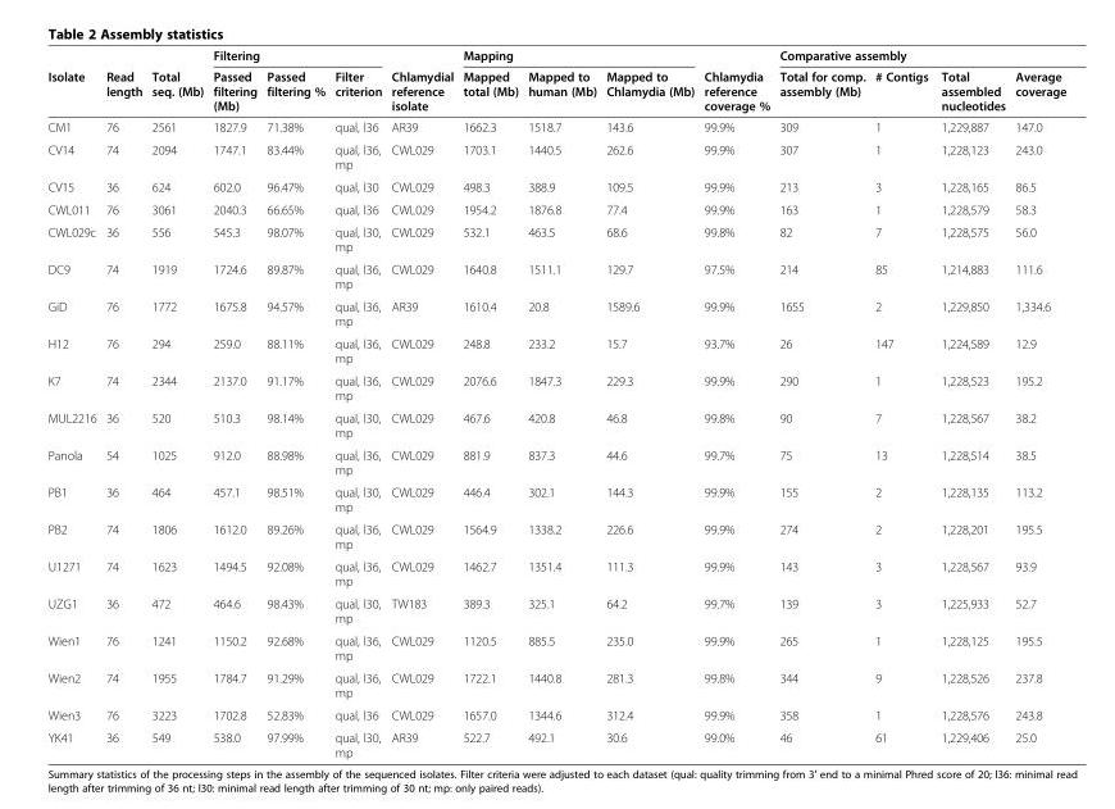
<table><thead><tr><td rowspan="2">Isolate</td><td rowspan="2">Read length</td><td rowspan="2">Total seq. (Mb)</td><td colspan="3">Filtering</td><td rowspan="2">Chlamydial reference isolate</td><td colspan="3">Mapping</td><td rowspan="2">Chlamydia reference coverage %</td><td colspan="4">Comparative assembly</td></tr><tr><td>Passed filtering (Mb)</td><td>Passed filtering %</td><td>Filter criterion</td><td>Mapped total (Mb)</td><td>Mapped to human (Mb)</td><td>Mapped to Chlamydia (Mb)</td><td>Total for comp. assembly (Mb)</td><td># Contigs</td><td>Total assembled nucleotides</td><td>Average coverage</td></tr></thead><tbody><tr><td>CM1</td><td>76</td><td>2561</td><td>1827.9</td><td>71.38%</td><td>qual, l36</td><td>AR39</td><td>1662.3</td><td>1518.7</td><td>143.6</td><td>99.9%</td><td>309</td><td>1</td><td>1,229,887</td><td>147.0</td></tr><tr><td>CV14</td><td>74</td><td>2094</td><td>1747.1</td><td>83.44%</td><td>qual, l36, mp</td><td>CWL029</td><td>1703.1</td><td>1440.5</td><td>262.6</td><td>99.9%</td><td>307</td><td>1</td><td>1,228,123</td><td>243.0</td></tr><tr><td>CV15</td><td>36</td><td>624</td><td>602.0</td><td>96.47%</td><td>qual, l30</td><td>CWL029</td><td>498.3</td><td>388.9</td><td>109.5</td><td>99.9%</td><td>213</td><td>3</td><td>1,228,165</td><td>86.5</td></tr><tr><td>CWL011</td><td>76</td><td>3061</td><td>2040.3</td><td>66.65%</td><td>qual, l36</td><td>CWL029</td><td>1954.2</td><td>1876.8</td><td>77.4</td><td>99.9%</td><td>163</td><td>1</td><td>1,228,579</td><td>58.3</td></tr><tr><td>CWL029c</td><td>36</td><td>556</td><td>545.3</td><td>98.07%</td><td>qual, l30, mp</td><td>CWL029</td><td>532.1</td><td>463.5</td><td>68.6</td><td>99.8%</td><td>82</td><td>7</td><td>1,228,575</td><td>56.0</td></tr><tr><td>DC9</td><td>74</td><td>1919</td><td>1724.6</td><td>89.87%</td><td>qual, l36, mp</td><td>CWL029</td><td>1640.8</td><td>1511.1</td><td>129.7</td><td>97.5%</td><td>214</td><td>85</td><td>1,214,883</td><td>111.6</td></tr><tr><td>GiD</td><td>76</td><td>1772</td><td>1675.8</td><td>94.57%</td><td>qual, l36, mp</td><td>AR39</td><td>1610.4</td><td>20.8</td><td>1589.6</td><td>99.9%</td><td>1655</td><td>2</td><td>1,229,850</td><td>1,334.6</td></tr><tr><td>H12</td><td>76</td><td>294</td><td>259.0</td><td>88.11%</td><td>qual, l36, mp</td><td>CWL029</td><td>248.8</td><td>233.2</td><td>15.7</td><td>93.7%</td><td>26</td><td>147</td><td>1,224,589</td><td>12.9</td></tr><tr><td>K7</td><td>74</td><td>2344</td><td>2137.0</td><td>91.17%</td><td>qual, l36, mp</td><td>CWL029</td><td>2076.6</td><td>1847.3</td><td>229.3</td><td>99.9%</td><td>290</td><td>1</td><td>1,228,523</td><td>195.2</td></tr><tr><td>MUL2216</td><td>36</td><td>520</td><td>510.3</td><td>98.14%</td><td>qual, l30, mp</td><td>CWL029</td><td>467.6</td><td>420.8</td><td>46.8</td><td>99.8%</td><td>90</td><td>7</td><td>1,228,567</td><td>38.2</td></tr><tr><td>Panola</td><td>54</td><td>1025</td><td>912.0</td><td>88.98%</td><td>qual, l36, mp</td><td>CWL029</td><td>881.9</td><td>837.3</td><td>44.6</td><td>99.7%</td><td>75</td><td>13</td><td>1,228,514</td><td>38.5</td></tr><tr><td>PB1</td><td>36</td><td>464</td><td>457.1</td><td>98.51%</td><td>qual, l30, mp</td><td>CWL029</td><td>446.4</td><td>302.1</td><td>144.3</td><td>99.9%</td><td>155</td><td>2</td><td>1,228,135</td><td>113.2</td></tr><tr><td>PB2</td><td>74</td><td>1806</td><td>1612.0</td><td>89.26%</td><td>qual, l36, mp</td><td>CWL029</td><td>1564.9</td><td>1338.2</td><td>226.6</td><td>99.9%</td><td>274</td><td>2</td><td>1,228,201</td><td>195.5</td></tr><tr><td>U1271</td><td>74</td><td>1623</td><td>1494.5</td><td>92.08%</td><td>qual, l36, mp</td><td>CWL029</td><td>1462.7</td><td>1351.4</td><td>111.3</td><td>99.9%</td><td>143</td><td>3</td><td>1,228,567</td><td>93.9</td></tr><tr><td>UZG1</td><td>36</td><td>472</td><td>464.6</td><td>98.43%</td><td>qual, l30, mp</td><td>TW183</td><td>389.3</td><td>325.1</td><td>64.2</td><td>99.7%</td><td>139</td><td>3</td><td>1,225,933</td><td>52.7</td></tr><tr><td>Wien1</td><td>76</td><td>1241</td><td>1150.2</td><td>92.68%</td><td>qual, l36, mp</td><td>CWL029</td><td>1120.5</td><td>885.5</td><td>235.0</td><td>99.9%</td><td>265</td><td>1</td><td>1,228,125</td><td>195.5</td></tr><tr><td>Wien2</td><td>74</td><td>1955</td><td>1784.7</td><td>91.29%</td><td>qual, l36, mp</td><td>CWL029</td><td>1722.1</td><td>1440.8</td><td>281.3</td><td>99.8%</td><td>344</td><td>9</td><td>1,228,526</td><td>237.8</td></tr><tr><td>Wien3</td><td>76</td><td>3223</td><td>1702.8</td><td>52.83%</td><td>qual, l36</td><td>CWL029</td><td>1657.0</td><td>1344.6</td><td>312.4</td><td>99.9%</td><td>358</td><td>1</td><td>1,228,576</td><td>243.8</td></tr><tr><td>YK41</td><td>36</td><td>549</td><td>538.0</td><td>97.99%</td><td>qual, l30, mp</td><td>AR39</td><td>522.7</td><td>492.1</td><td>30.6</td><td>99.0%</td><td>46</td><td>61</td><td>1,229,406</td><td>25.0</td></tr></tbody></table>